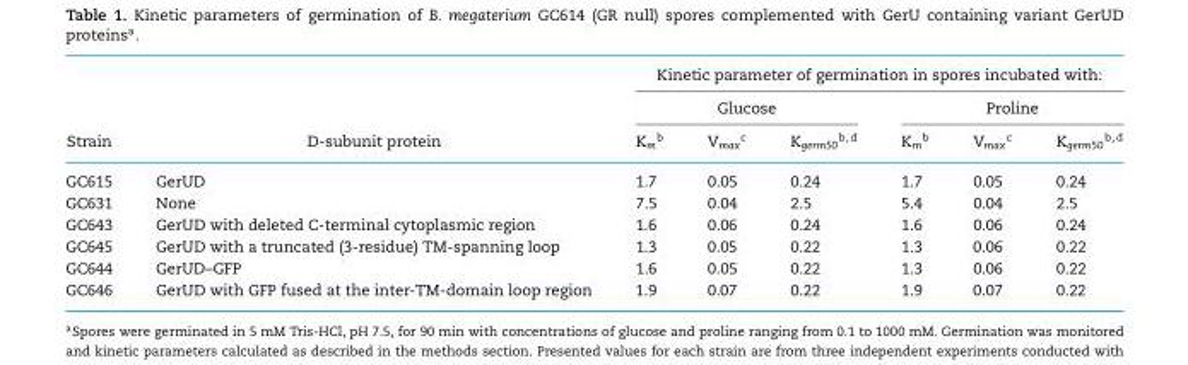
<table><thead><tr><td rowspan="3">Strain</td><td rowspan="3">D-subunit protein</td><td colspan="6">Kinetic parameter of germination in spores incubated with:</td></tr><tr><td colspan="3">Glucose</td><td colspan="3">Proline</td></tr><tr><td>K<sub>m</sub><sup>b</sup></td><td>V<sub>max</sub><sup>c</sup></td><td>Kgerm50b,d</td><td>K<sub>m</sub><sup>b</sup></td><td>V<sub>max</sub><sup>c</sup></td><td>Kgerm50b,d</td></tr></thead><tbody><tr><td>GC615</td><td>GerUD</td><td>1.7</td><td>0.05</td><td>0.24</td><td>1.7</td><td>0.05</td><td>0.24</td></tr><tr><td>GC631</td><td>None</td><td>7.5</td><td>0.04</td><td>2.5</td><td>5.4</td><td>0.04</td><td>2.5</td></tr><tr><td>GC643</td><td>GerUD with deleted C-terminal cytoplasmic region</td><td>1.6</td><td>0.06</td><td>0.24</td><td>1.6</td><td>0.06</td><td>0.24</td></tr><tr><td>GC645</td><td>GerUD with a truncated (3-residue) TM-spanning loop</td><td>1.3</td><td>0.05</td><td>0.22</td><td>1.3</td><td>0.06</td><td>0.22</td></tr><tr><td>GC644</td><td>GerUD–GFP</td><td>1.6</td><td>0.05</td><td>0.22</td><td>1.3</td><td>0.06</td><td>0.22</td></tr><tr><td>GC646</td><td>GerUD with GFP fused at the inter-TM-domain loop region</td><td>1.9</td><td>0.07</td><td>0.22</td><td>1.9</td><td>0.07</td><td>0.22</td></tr></tbody></table>